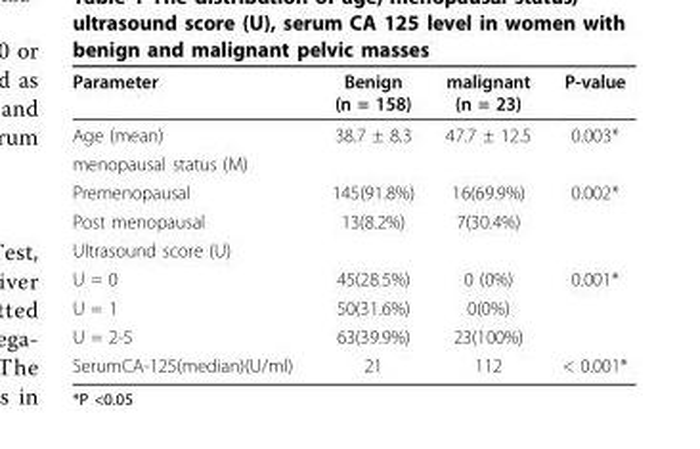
<table><thead><tr><td>Parameter</td><td>Benign (n = 158)</td><td>malignant (n = 23)</td><td>P-value</td></tr></thead><tbody><tr><td>Age (mean)</td><td>38.7 ± 8.3</td><td>47.7 ± 12.5</td><td>0.003*</td></tr><tr><td colspan="4">menopausal status (M)</td></tr><tr><td>Premenopausal</td><td>145(91.8%)</td><td>16(69.9%)</td><td>0.002*</td></tr><tr><td>Post menopausal</td><td>13(8.2%)</td><td>7(30.4%)</td><td></td></tr><tr><td colspan="4">Ultrasound score (U)</td></tr><tr><td>U = 0</td><td>45(28.5%)</td><td>0 (0%)</td><td>0.001*</td></tr><tr><td>U = 1</td><td>50(31.6%)</td><td>0(0%)</td><td></td></tr><tr><td>U = 2-5</td><td>63(39.9%)</td><td>23(100%)</td><td></td></tr><tr><td>SerumCA-125(median)(U/ml)</td><td>21</td><td>112</td><td>&lt; 0.001*</td></tr></tbody></table>